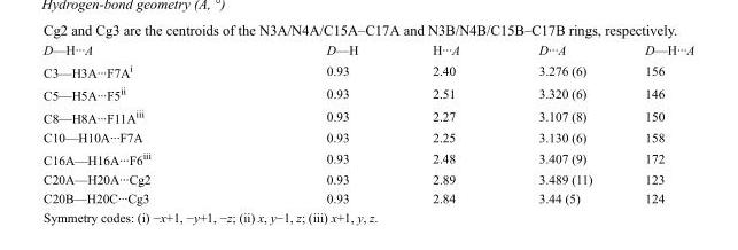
<table><tbody><tr><td>D—H···A</td><td>D—H</td><td>H···A</td><td>D···A</td><td>D—H···A</td></tr><tr><td>C3—H3A···F7A<sup>i</sup></td><td>0.93</td><td>2.40</td><td>3.276 (6)</td><td>156</td></tr><tr><td>C5—H5A···F5<sup>ii</sup></td><td>0.93</td><td>2.51</td><td>3.320 (6)</td><td>146</td></tr><tr><td>C8—H8A···F11A<sup>iii</sup></td><td>0.93</td><td>2.27</td><td>3.107 (8)</td><td>150</td></tr><tr><td>C10—H10A···F7A</td><td>0.93</td><td>2.25</td><td>3.130 (6)</td><td>158</td></tr><tr><td>C16A—H16A···F6<sup>iii</sup></td><td>0.93</td><td>2.48</td><td>3.407 (9)</td><td>172</td></tr><tr><td>C20A—H20A···Cg2</td><td>0.93</td><td>2.89</td><td>3.489 (11)</td><td>123</td></tr><tr><td>C20B—H20C···Cg3</td><td>0.93</td><td>2.84</td><td>3.44 (5)</td><td>124</td></tr></tbody></table>